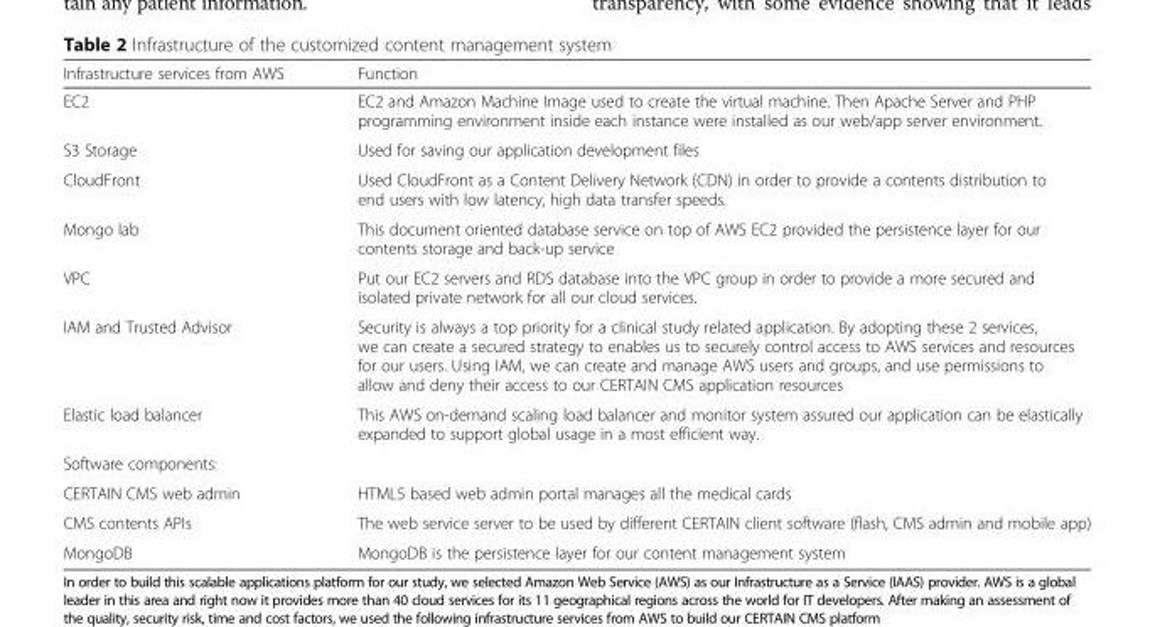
<table><thead><tr><td>Infrastructure services from AWS</td><td>Function</td></tr></thead><tbody><tr><td>EC2</td><td>EC2 and Amazon Machine Image used to create the virtual machine. Then Apache Server and PHP programming environment inside each instance were installed as our web/app server environment.</td></tr><tr><td>S3 Storage</td><td>Used for saving our application development files</td></tr><tr><td>CloudFront</td><td>Used CloudFront as a Content Delivery Network (CDN) in order to provide a contents distribution to end users with low latency, high data transfer speeds.</td></tr><tr><td>Mongo lab</td><td>This document oriented database service on top of AWS EC2 provided the persistence layer for our contents storage and back-up service</td></tr><tr><td>VPC</td><td>Put our EC2 servers and RDS database into the VPC group in order to provide a more secured and isolated private network for all our cloud services.</td></tr><tr><td>IAM and Trusted Advisor</td><td>Security is always a top priority for a clinical study related application. By adopting these 2 services, we can create a secured strategy to enables us to securely control access to AWS services and resources for our users. Using IAM, we can create and manage AWS users and groups, and use permissions to allow and deny their access to our CERTAIN CMS application resources</td></tr><tr><td>Elastic load balancer</td><td>This AWS on-demand scaling load balancer and monitor system assured our application can be elastically expanded to support global usage in a most efficient way.</td></tr><tr><td colspan="2">Software components:</td></tr><tr><td>CERTAIN CMS web admin</td><td>HTML5 based web admin portal manages all the medical cards</td></tr><tr><td>CMS contents APIs</td><td>The web service server to be used by different CERTAIN client software (flash, CMS admin and mobile app)</td></tr><tr><td>MongoDB</td><td>MongoDB is the persistence layer for our content management system</td></tr></tbody></table>